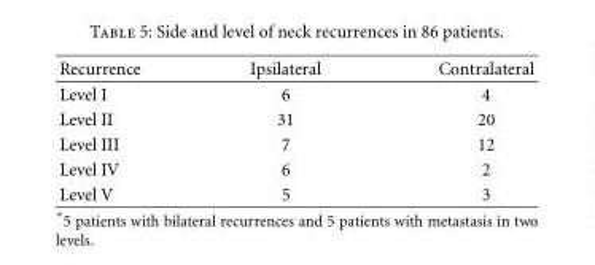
<table><thead><tr><td>Recurrence</td><td>Ipsilateral</td><td>Contralateral</td></tr></thead><tbody><tr><td>Level I</td><td>6</td><td>4</td></tr><tr><td>Level II</td><td>31</td><td>20</td></tr><tr><td>Level III</td><td>7</td><td>12</td></tr><tr><td>Level IV</td><td>6</td><td>2</td></tr><tr><td>Level V</td><td>5</td><td>3</td></tr></tbody></table>